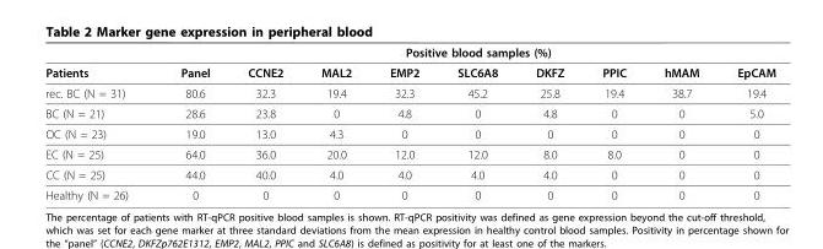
<table><thead><tr><td rowspan="2">Patients</td><td colspan="9">Positive blood samples (%)</td></tr><tr><td>Panel</td><td>CCNE2</td><td>MAL2</td><td>EMP2</td><td>SLC6A8</td><td>DKFZ</td><td>PPIC</td><td>hMAM</td><td>EpCAM</td></tr></thead><tbody><tr><td>rec. BC (N = 31)</td><td>80.6</td><td>32.3</td><td>19.4</td><td>32.3</td><td>45.2</td><td>25.8</td><td>19.4</td><td>38.7</td><td>19.4</td></tr><tr><td>BC (N = 21)</td><td>28.6</td><td>23.8</td><td>0</td><td>4.8</td><td>0</td><td>4.8</td><td>0</td><td>0</td><td>5.0</td></tr><tr><td>OC (N = 23)</td><td>19.0</td><td>13.0</td><td>4.3</td><td>0</td><td>0</td><td>0</td><td>0</td><td>0</td><td>0</td></tr><tr><td>EC (N = 25)</td><td>64.0</td><td>36.0</td><td>20.0</td><td>12.0</td><td>12.0</td><td>8.0</td><td>8.0</td><td>0</td><td>0</td></tr><tr><td>CC (N = 25)</td><td>44.0</td><td>40.0</td><td>4.0</td><td>4.0</td><td>4.0</td><td>4.0</td><td>0</td><td>0</td><td>0</td></tr><tr><td>Healthy (N = 26)</td><td>0</td><td>0</td><td>0</td><td>0</td><td>0</td><td>0</td><td>0</td><td>0</td><td>0</td></tr></tbody></table>